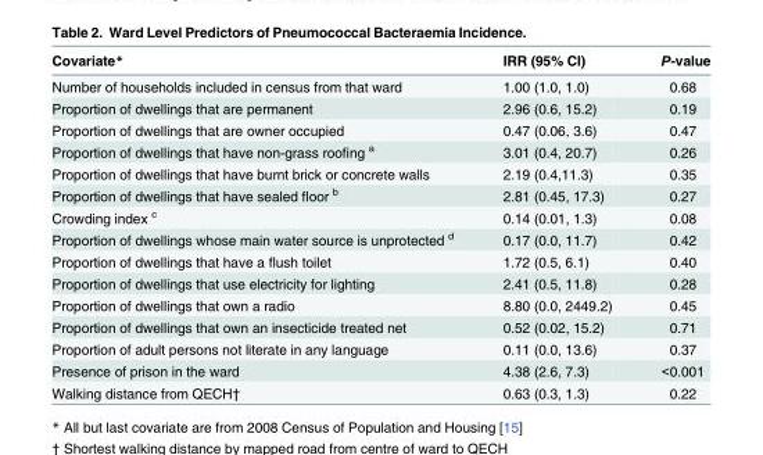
<table><thead><tr><td>Covariate*</td><td>IRR (95% CI)</td><td>P-value</td></tr></thead><tbody><tr><td>Number of households included in census from that ward</td><td>1.00 (1.0, 1.0)</td><td>0.68</td></tr><tr><td>Proportion of dwellings that are permanent</td><td>2.96 (0.6, 15.2)</td><td>0.19</td></tr><tr><td>Proportion of dwellings that are owner occupied</td><td>0.47 (0.06, 3.6)</td><td>0.47</td></tr><tr><td>Proportion of dwellings that have non-grass roofing <sup>a</sup></td><td>3.01 (0.4, 20.7)</td><td>0.26</td></tr><tr><td>Proportion of dwellings that have burnt brick or concrete walls</td><td>2.19 (0.4,11.3)</td><td>0.35</td></tr><tr><td>Proportion of dwellings that have sealed floor <sup>b</sup></td><td>2.81 (0.45, 17.3)</td><td>0.27</td></tr><tr><td>Crowding index <sup>c</sup></td><td>0.14 (0.01, 1.3)</td><td>0.08</td></tr><tr><td>Proportion of dwellings whose main water source is unprotected <sup>d</sup></td><td>0.17 (0.0, 11.7)</td><td>0.42</td></tr><tr><td>Proportion of dwellings that have a flush toilet</td><td>1.72 (0.5, 6.1)</td><td>0.40</td></tr><tr><td>Proportion of dwellings that use electricity for lighting</td><td>2.41 (0.5, 11.8)</td><td>0.28</td></tr><tr><td>Proportion of dwellings that own a radio</td><td>8.80 (0.0, 2449.2)</td><td>0.45</td></tr><tr><td>Proportion of dwellings that own an insecticide treated net</td><td>0.52 (0.02, 15.2)</td><td>0.71</td></tr><tr><td>Proportion of adult persons not literate in any language</td><td>0.11 (0.0, 13.6)</td><td>0.37</td></tr><tr><td>Presence of prison in the ward</td><td>4.38 (2.6, 7.3)</td><td>&lt;0.001</td></tr><tr><td>Walking distance from QECH†</td><td>0.63 (0.3, 1.3)</td><td>0.22</td></tr></tbody></table>